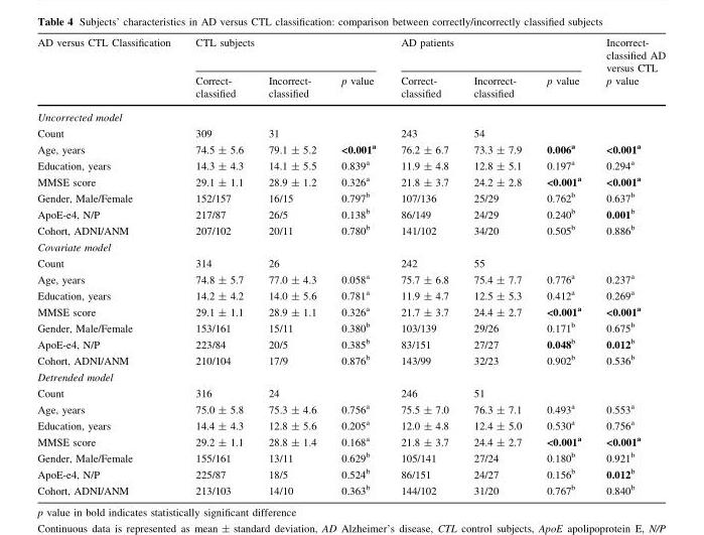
<table><thead><tr><td rowspan="2">AD versus CTL Classification</td><td colspan="3">CTL subjects</td><td colspan="3">AD patients</td><td rowspan="2">Incorrect- classified AD versus CTL p value</td></tr><tr><td>Correct- classified</td><td>Incorrect- classified</td><td>p value</td><td>Correct- classified</td><td>Incorrect- classified</td><td>p value</td></tr></thead><tbody><tr><td colspan="8">Uncorrected model</td></tr><tr><td>Count</td><td>309</td><td>31</td><td></td><td>243</td><td>54</td><td></td><td></td></tr><tr><td>Age, years</td><td>74.5 ± 5.6</td><td>79.1 ± 5.2</td><td>&lt;0.001<sup>a</sup></td><td>76.2 ± 6.7</td><td>73.3 ± 7.9</td><td>0.006<sup>a</sup></td><td>&lt;0.001<sup>a</sup></td></tr><tr><td>Education, years</td><td>14.3 ± 4.3</td><td>14.1 ± 5.5</td><td>0.839<sup>a</sup></td><td>11.9 ± 4.8</td><td>12.8 ± 5.1</td><td>0.197<sup>a</sup></td><td>0.294<sup>a</sup></td></tr><tr><td>MMSE score</td><td>29.1 ± 1.1</td><td>28.9 ± 1.2</td><td>0.326<sup>a</sup></td><td>21.8 ± 3.7</td><td>24.2 ± 2.8</td><td>&lt;0.001<sup>a</sup></td><td>&lt;0.001<sup>a</sup></td></tr><tr><td>Gender, Male/Female</td><td>152/157</td><td>16/15</td><td>0.797<sup>b</sup></td><td>107/136</td><td>25/29</td><td>0.762<sup>b</sup></td><td>0.637<sup>b</sup></td></tr><tr><td>ApoE-e4, N/P</td><td>217/87</td><td>26/5</td><td>0.138<sup>b</sup></td><td>86/149</td><td>24/29</td><td>0.240<sup>b</sup></td><td>0.001<sup>b</sup></td></tr><tr><td>Cohort, ADNI/ANM</td><td>207/102</td><td>20/11</td><td>0.780<sup>b</sup></td><td>141/102</td><td>34/20</td><td>0.505<sup>b</sup></td><td>0.886<sup>b</sup></td></tr><tr><td colspan="8">Covariate model</td></tr><tr><td>Count</td><td>314</td><td>26</td><td></td><td>242</td><td>55</td><td></td><td></td></tr><tr><td>Age, years</td><td>74.8 ± 5.7</td><td>77.0 ± 4.3</td><td>0.058<sup>a</sup></td><td>75.7 ± 6.8</td><td>75.4 ± 7.7</td><td>0.776<sup>a</sup></td><td>0.237<sup>a</sup></td></tr><tr><td>Education, years</td><td>14.2 ± 4.2</td><td>14.0 ± 5.6</td><td>0.781<sup>a</sup></td><td>11.9 ± 4.7</td><td>12.5 ± 5.3</td><td>0.412<sup>a</sup></td><td>0.269<sup>a</sup></td></tr><tr><td>MMSE score</td><td>29.1 ± 1.1</td><td>28.9 ± 1.1</td><td>0.326<sup>a</sup></td><td>21.7 ± 3.7</td><td>24.4 ± 2.7</td><td>&lt;0.001<sup>a</sup></td><td>&lt;0.001<sup>a</sup></td></tr><tr><td>Gender, Male/Female</td><td>153/161</td><td>15/11</td><td>0.380<sup>b</sup></td><td>103/139</td><td>29/26</td><td>0.171<sup>b</sup></td><td>0.675<sup>b</sup></td></tr><tr><td>ApoE-e4, N/P</td><td>223/84</td><td>20/5</td><td>0.385<sup>b</sup></td><td>83/151</td><td>27/27</td><td>0.048<sup>b</sup></td><td>0.012<sup>b</sup></td></tr><tr><td>Cohort, ADNI/ANM</td><td>210/104</td><td>17/9</td><td>0.876<sup>b</sup></td><td>143/99</td><td>32/23</td><td>0.902<sup>b</sup></td><td>0.536<sup>b</sup></td></tr><tr><td colspan="8">Detrended model</td></tr><tr><td>Count</td><td>316</td><td>24</td><td></td><td>246</td><td>51</td><td></td><td></td></tr><tr><td>Age, years</td><td>75.0 ± 5.8</td><td>75.3 ± 4.6</td><td>0.756<sup>a</sup></td><td>75.5 ± 7.0</td><td>76.3 ± 7.1</td><td>0.493<sup>a</sup></td><td>0.553<sup>a</sup></td></tr><tr><td>Education, years</td><td>14.4 ± 4.3</td><td>12.8 ± 5.6</td><td>0.205<sup>a</sup></td><td>12.0 ± 4.8</td><td>12.4 ± 5.0</td><td>0.530<sup>a</sup></td><td>0.756<sup>a</sup></td></tr><tr><td>MMSE score</td><td>29.2 ± 1.1</td><td>28.8 ± 1.4</td><td>0.168<sup>a</sup></td><td>21.8 ± 3.7</td><td>24.4 ± 2.7</td><td>&lt;0.001<sup>a</sup></td><td>&lt;0.001<sup>a</sup></td></tr><tr><td>Gender, Male/Female</td><td>155/161</td><td>13/11</td><td>0.629<sup>b</sup></td><td>105/141</td><td>27/24</td><td>0.180<sup>b</sup></td><td>0.921<sup>b</sup></td></tr><tr><td>ApoE-e4, N/P</td><td>225/87</td><td>18/5</td><td>0.524<sup>b</sup></td><td>86/151</td><td>24/27</td><td>0.156<sup>b</sup></td><td>0.012<sup>b</sup></td></tr><tr><td>Cohort, ADNI/ANM</td><td>213/103</td><td>14/10</td><td>0.363<sup>b</sup></td><td>144/102</td><td>31/20</td><td>0.767<sup>b</sup></td><td>0.840<sup>b</sup></td></tr></tbody></table>